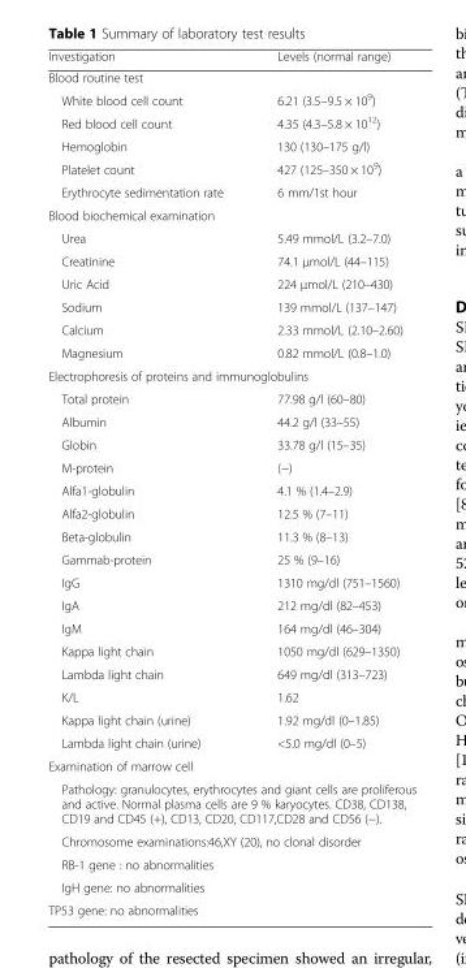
<table><thead><tr><td>Investigation</td><td>Levels (normal range)</td></tr></thead><tbody><tr><td colspan="2">Blood routine test</td></tr><tr><td>White blood cell count</td><td>6.21 (3.5–9.5 × 10<sup>9</sup>)</td></tr><tr><td>Red blood cell count</td><td>4.35 (4.3–5.8 × 10<sup>12</sup>)</td></tr><tr><td>Hemoglobin</td><td>130 (130–175 g/l)</td></tr><tr><td>Platelet count</td><td>427 (125–350 × 10<sup>9</sup>)</td></tr><tr><td>Erythrocyte sedimentation rate</td><td>6 mm/1st hour</td></tr><tr><td colspan="2">Blood biochemical examination</td></tr><tr><td>Urea</td><td>5.49 mmol/L (3.2–7.0)</td></tr><tr><td>Creatinine</td><td>74.1 μmol/L (44–115)</td></tr><tr><td>Uric Acid</td><td>224 μmol/L (210–430)</td></tr><tr><td>Sodium</td><td>139 mmol/L (137–147)</td></tr><tr><td>Calcium</td><td>2.33 mmol/L (2.10–2.60)</td></tr><tr><td>Magnesium</td><td>0.82 mmol/L (0.8–1.0)</td></tr><tr><td colspan="2">Electrophoresis of proteins and immunoglobulins</td></tr><tr><td>Total protein</td><td>77.98 g/l (60–80)</td></tr><tr><td>Albumin</td><td>44.2 g/l (33–55)</td></tr><tr><td>Globin</td><td>33.78 g/l (15–35)</td></tr><tr><td>M-protein</td><td>(−)</td></tr><tr><td>Alfa1-globulin</td><td>4.1 % (1.4–2.9)</td></tr><tr><td>Alfa2-globulin</td><td>12.5 % (7–11)</td></tr><tr><td>Beta-globulin</td><td>11.3 % (8–13)</td></tr><tr><td>Gammab-protein</td><td>25 % (9–16)</td></tr><tr><td>IgG</td><td>1310 mg/dl (751–1560)</td></tr><tr><td>IgA</td><td>212 mg/dl (82–453)</td></tr><tr><td>IgM</td><td>164 mg/dl (46–304)</td></tr><tr><td>Kappa light chain</td><td>1050 mg/dl (629–1350)</td></tr><tr><td>Lambda light chain</td><td>649 mg/dl (313–723)</td></tr><tr><td>K/L</td><td>1.62</td></tr><tr><td>Kappa light chain (urine)</td><td>1.92 mg/dl (0–1.85)</td></tr><tr><td>Lambda light chain (urine)</td><td>&lt;5.0 mg/dl (0–5)</td></tr><tr><td colspan="2">Examination of marrow cell</td></tr><tr><td colspan="2">Pathology: granulocytes, erythrocytes and giant cells are proliferous and active. Normal plasma cells are 9 % karyocytes. CD38, CD138, CD19 and CD45 (+), CD13, CD20, CD117,CD28 and CD56 (−).</td></tr><tr><td colspan="2">Chromosome examinations:46,XY (20), no clonal disorder</td></tr><tr><td colspan="2">RB-1 gene : no abnormalities</td></tr><tr><td colspan="2">IgH gene: no abnormalities</td></tr><tr><td colspan="2">TP53 gene: no abnormalities</td></tr></tbody></table>